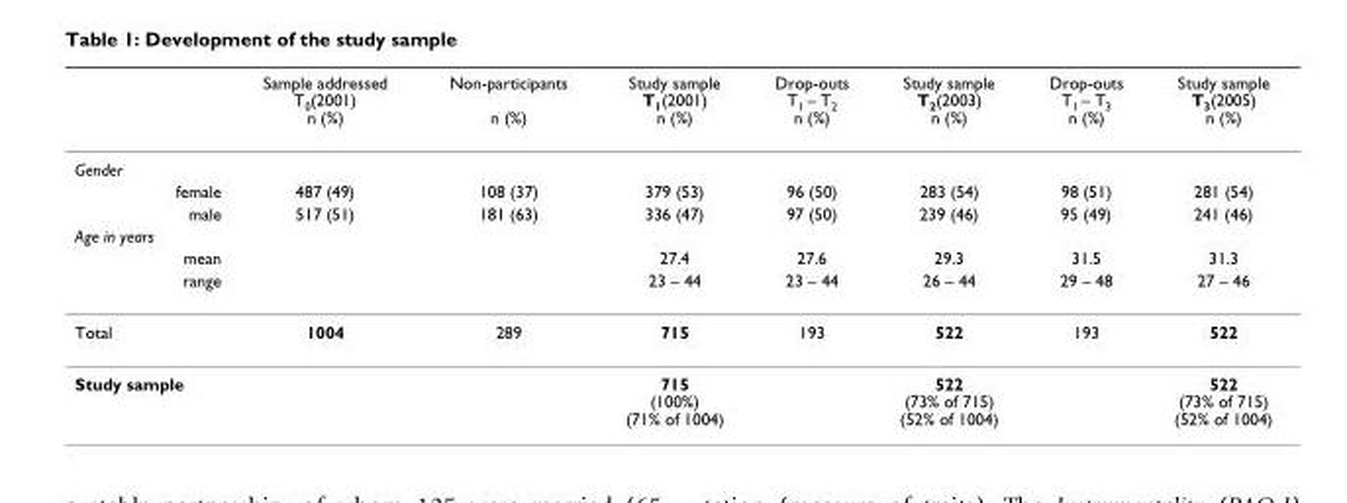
<table><thead><tr><td></td><td>Sample addressed T0(2001) n (%)</td><td>Non-participants n (%)</td><td>Study sample T1(2001) n (%)</td><td>Drop-outs T1 – T2 n (%)</td><td>Study sample T2(2003) n (%)</td><td>Drop-outs T1 – T3 n (%)</td><td>Study sample T3(2005) n (%)</td></tr></thead><tbody><tr><td colspan="8">Gender</td></tr><tr><td>female</td><td>487 (49)</td><td>108 (37)</td><td>379 (53)</td><td>96 (50)</td><td>283 (54)</td><td>98 (51)</td><td>281 (54)</td></tr><tr><td>male</td><td>517 (51)</td><td>181 (63)</td><td>336 (47)</td><td>97 (50)</td><td>239 (46)</td><td>95 (49)</td><td>241 (46)</td></tr><tr><td colspan="8">Age in years</td></tr><tr><td>mean</td><td></td><td></td><td>27.4</td><td>27.6</td><td>29.3</td><td>31.5</td><td>31.3</td></tr><tr><td>range</td><td></td><td></td><td>23 – 44</td><td>23 – 44</td><td>26 – 44</td><td>29 – 48</td><td>27 – 46</td></tr><tr><td>Total</td><td>1004</td><td>289</td><td>715</td><td>193</td><td>522</td><td>193</td><td>522</td></tr><tr><td>Study sample</td><td></td><td></td><td>715 (100%) (71% of 1004)</td><td></td><td>522 (73% of 715) (52% of 1004)</td><td></td><td>522 (73% of 715) (52% of 1004)</td></tr></tbody></table>